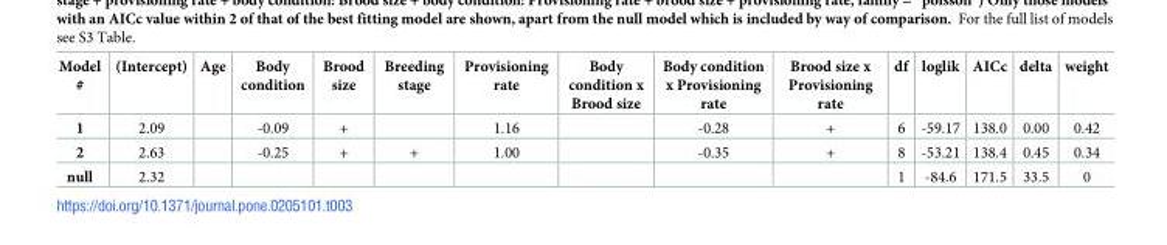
<table><thead><tr><td>Model #</td><td>(Intercept)</td><td>Age</td><td>Body condition</td><td>Brood size</td><td>Breeding stage</td><td>Provisioning rate</td><td>Body condition x Brood size</td><td>Body condition x Provisioning rate</td><td>Brood size x Provisioning rate</td><td>df</td><td>loglik</td><td>AICc</td><td>delta</td><td>weight</td></tr></thead><tbody><tr><td>1</td><td>2.09</td><td></td><td>-0.09</td><td>+</td><td></td><td>1.16</td><td></td><td>-0.28</td><td>+</td><td>6</td><td>-59.17</td><td>138.0</td><td>0.00</td><td>0.42</td></tr><tr><td>2</td><td>2.63</td><td></td><td>-0.25</td><td>+</td><td>+</td><td>1.00</td><td></td><td>-0.35</td><td>+</td><td>8</td><td>-53.21</td><td>138.4</td><td>0.45</td><td>0.34</td></tr><tr><td>null</td><td>2.32</td><td></td><td></td><td></td><td></td><td></td><td></td><td></td><td></td><td>1</td><td>-84.6</td><td>171.5</td><td>33.5</td><td>0</td></tr></tbody></table>